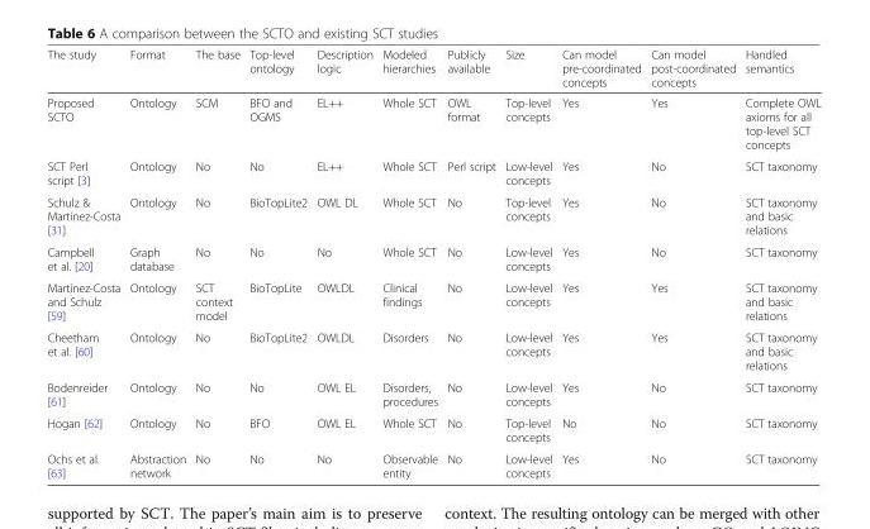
<table><thead><tr><td>The study</td><td>Format</td><td>The base</td><td>Top-level ontology</td><td>Description logic</td><td>Modeled hierarchies</td><td>Publicly available</td><td>Size</td><td>Can model pre-coordinated concepts</td><td>Can model post-coordinated concepts</td><td>Handled semantics</td></tr></thead><tbody><tr><td>Proposed SCTO</td><td>Ontology</td><td>SCM</td><td>BFO and OGMS</td><td>EL++</td><td>Whole SCT</td><td>OWL format</td><td>Top-level concepts</td><td>Yes</td><td>Yes</td><td>Complete OWL axioms for all top-level SCT concepts</td></tr><tr><td>SCT Perl script [3]</td><td>Ontology</td><td>No</td><td>No</td><td>EL++</td><td>Whole SCT</td><td>Perl script</td><td>Low-level concepts</td><td>Yes</td><td>No</td><td>SCT taxonomy</td></tr><tr><td>Schulz &amp; Martínez-Costa [31]</td><td>Ontology</td><td>No</td><td>BioTopLite2</td><td>OWL DL</td><td>Whole SCT</td><td>No</td><td>Top-level concepts</td><td>Yes</td><td>No</td><td>SCT taxonomy and basic relations</td></tr><tr><td>Campbell et al. [20]</td><td>Graph database</td><td>No</td><td>No</td><td>No</td><td>Whole SCT</td><td>No</td><td>Low-level concepts</td><td>Yes</td><td>No</td><td>SCT taxonomy</td></tr><tr><td>Martínez-Costa and Schulz [59]</td><td>Ontology</td><td>SCT context model</td><td>BioTopLite</td><td>OWLDL</td><td>Clinical findings</td><td>No</td><td>Low-level concepts</td><td>Yes</td><td>Yes</td><td>SCT taxonomy and basic relations</td></tr><tr><td>Cheetham et al. [60]</td><td>Ontology</td><td>No</td><td>BioTopLite2</td><td>OWLDL</td><td>Disorders</td><td>No</td><td>Low-level concepts</td><td>Yes</td><td>Yes</td><td>SCT taxonomy and basic relations</td></tr><tr><td>Bodenreider [61]</td><td>Ontology</td><td>No</td><td>No</td><td>OWL EL</td><td>Disorders, procedures</td><td>No</td><td>Low-level concepts</td><td>Yes</td><td>No</td><td>SCT taxonomy</td></tr><tr><td>Hogan [62]</td><td>Ontology</td><td>No</td><td>BFO</td><td>OWL EL</td><td>Whole SCT</td><td>No</td><td>Top-level concepts</td><td>No</td><td>No</td><td>SCT taxonomy</td></tr><tr><td>Ochs et al. [63]</td><td>Abstraction network</td><td>No</td><td>No</td><td>No</td><td>Observable entity</td><td>No</td><td>Low-level concepts</td><td>Yes</td><td>No</td><td>SCT taxonomy</td></tr></tbody></table>